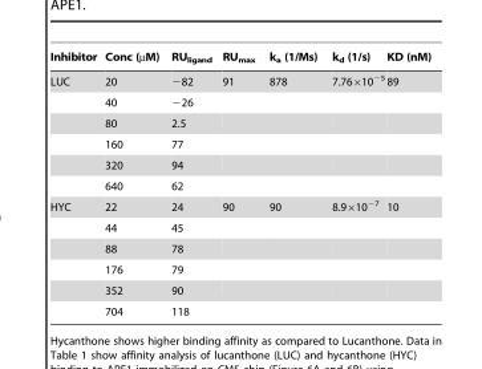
<table><thead><tr><td>Inhibitor</td><td>Conc (µM)</td><td>RU<sub>ligand</sub></td><td>RU<sub>max</sub></td><td>k<sub>a</sub> (1/Ms)</td><td>k<sub>d</sub> (1/s)</td><td>KD (nM)</td></tr></thead><tbody><tr><td rowspan="6">LUC</td><td>20</td><td>−82</td><td>91</td><td>878</td><td>7.76×10<sup>−5</sup></td><td>89</td></tr><tr><td>40</td><td>−26</td><td></td><td></td><td></td><td></td></tr><tr><td>80</td><td>2.5</td><td></td><td></td><td></td><td></td></tr><tr><td>160</td><td>77</td><td></td><td></td><td></td><td></td></tr><tr><td>320</td><td>94</td><td></td><td></td><td></td><td></td></tr><tr><td>640</td><td>62</td><td></td><td></td><td></td><td></td></tr><tr><td rowspan="6">HYC</td><td>22</td><td>24</td><td>90</td><td>90</td><td>8.9×10<sup>−7</sup></td><td>10</td></tr><tr><td>44</td><td>45</td><td></td><td></td><td></td><td></td></tr><tr><td>88</td><td>78</td><td></td><td></td><td></td><td></td></tr><tr><td>176</td><td>79</td><td></td><td></td><td></td><td></td></tr><tr><td>352</td><td>90</td><td></td><td></td><td></td><td></td></tr><tr><td>704</td><td>118</td><td></td><td></td><td></td><td></td></tr></tbody></table>